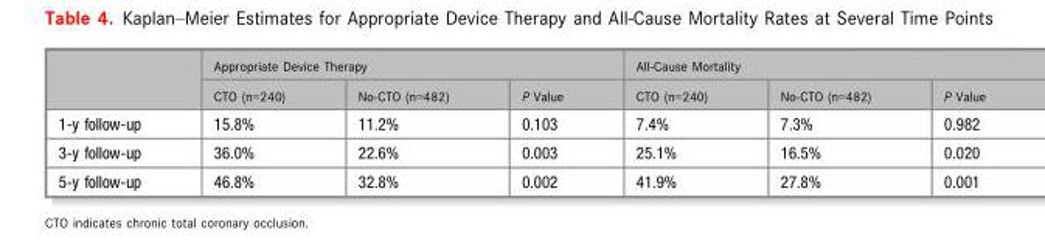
<table><thead><tr><td rowspan="2"></td><td colspan="3">Appropriate Device Therapy</td><td colspan="3">All-Cause Mortality</td></tr><tr><td>CTO (n=240)</td><td>No-CTO (n=482)</td><td>P Value</td><td>CTO (n=240)</td><td>No-CTO (n=482)</td><td>P Value</td></tr></thead><tbody><tr><td>1-y follow-up</td><td>15.8%</td><td>11.2%</td><td>0.103</td><td>7.4%</td><td>7.3%</td><td>0.982</td></tr><tr><td>3-y follow-up</td><td>36.0%</td><td>22.6%</td><td>0.003</td><td>25.1%</td><td>16.5%</td><td>0.020</td></tr><tr><td>5-y follow-up</td><td>46.8%</td><td>32.8%</td><td>0.002</td><td>41.9%</td><td>27.8%</td><td>0.001</td></tr></tbody></table>